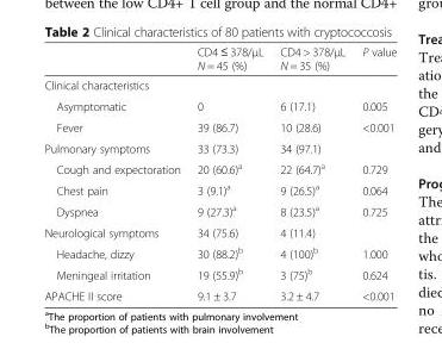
<table><thead><tr><td></td><td>CD4 ≤ 378/μL N = 45 (%)</td><td>CD4 &gt; 378/μL N = 35 (%)</td><td>P value</td></tr></thead><tbody><tr><td colspan="4">Clinical characteristics</td></tr><tr><td>Asymptomatic</td><td>0</td><td>6 (17.1)</td><td>0.005</td></tr><tr><td>Fever</td><td>39 (86.7)</td><td>10 (28.6)</td><td>&lt;0.001</td></tr><tr><td>Pulmonary symptoms</td><td>33 (73.3)</td><td>34 (97.1)</td><td></td></tr><tr><td>Cough and expectoration</td><td>20 (60.6)<sup>a</sup></td><td>22 (64.7)<sup>a</sup></td><td>0.729</td></tr><tr><td>Chest pain</td><td>3 (9.1)<sup>a</sup></td><td>9 (26.5)<sup>a</sup></td><td>0.064</td></tr><tr><td>Dyspnea</td><td>9 (27.3)<sup>a</sup></td><td>8 (23.5)<sup>a</sup></td><td>0.725</td></tr><tr><td>Neurological symptoms</td><td>34 (75.6)</td><td>4 (11.4)</td><td></td></tr><tr><td>Headache, dizzy</td><td>30 (88.2)<sup>b</sup></td><td>4 (100)<sup>b</sup></td><td>1.000</td></tr><tr><td>Meningeal irritation</td><td>19 (55.9)<sup>b</sup></td><td>3 (75)<sup>b</sup></td><td>0.624</td></tr><tr><td>APACHE II score</td><td>9.1 ± 3.7</td><td>3.2 ± 4.7</td><td>&lt;0.001</td></tr></tbody></table>